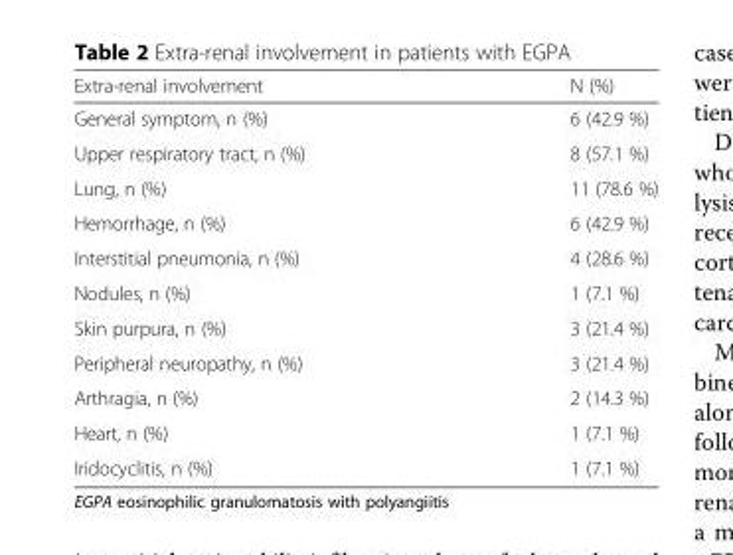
<table><thead><tr><td>Extra-renal involvement</td><td>N (%)</td></tr></thead><tbody><tr><td>General symptom, n (%)</td><td>6 (42.9 %)</td></tr><tr><td>Upper respiratory tract, n (%)</td><td>8 (57.1 %)</td></tr><tr><td>Lung, n (%)</td><td>11 (78.6 %)</td></tr><tr><td>Hemorrhage, n (%)</td><td>6 (42.9 %)</td></tr><tr><td>Interstitial pneumonia, n (%)</td><td>4 (28.6 %)</td></tr><tr><td>Nodules, n (%)</td><td>1 (7.1 %)</td></tr><tr><td>Skin purpura, n (%)</td><td>3 (21.4 %)</td></tr><tr><td>Peripheral neuropathy, n (%)</td><td>3 (21.4 %)</td></tr><tr><td>Arthragia, n (%)</td><td>2 (14.3 %)</td></tr><tr><td>Heart, n (%)</td><td>1 (7.1 %)</td></tr><tr><td>Iridocyclitis, n (%)</td><td>1 (7.1 %)</td></tr></tbody></table>